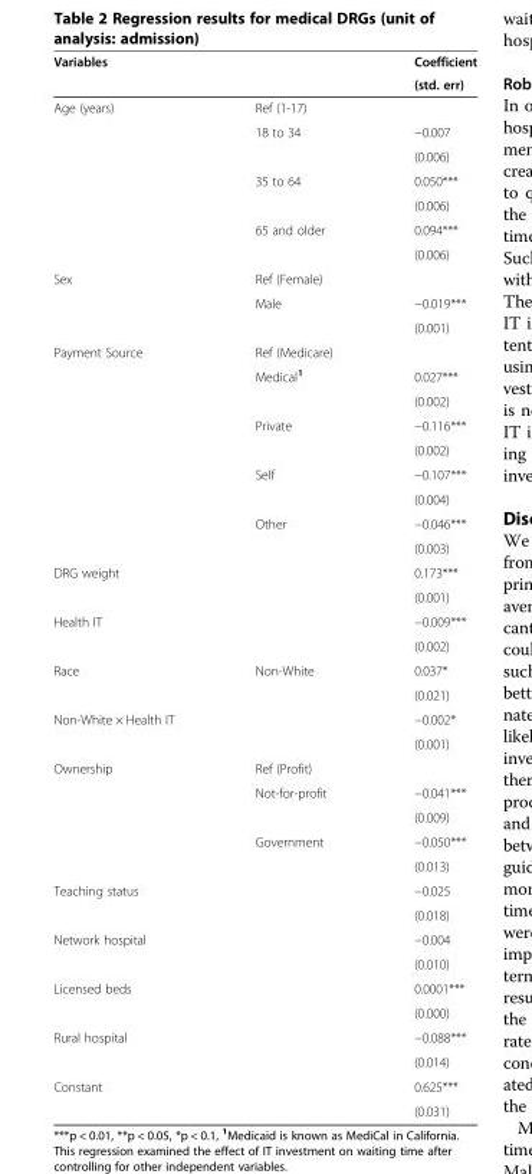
<table><thead><tr><td rowspan="2" colspan="2">Variables</td><td rowspan="3">Coefficient (std. err)</td></tr><tr></tr><tr><td>Age (years)</td><td>Ref (1-17)</td></tr></thead><tbody><tr><td></td><td>18 to 34</td><td>−0.007</td></tr><tr><td></td><td></td><td>(0.006)</td></tr><tr><td></td><td>35 to 64</td><td>0.050***</td></tr><tr><td></td><td></td><td>(0.006)</td></tr><tr><td></td><td>65 and older</td><td>0.094***</td></tr><tr><td></td><td></td><td>(0.006)</td></tr><tr><td rowspan="3">Sex</td><td>Ref (Female)</td><td></td></tr><tr><td>Male</td><td>−0.019***</td></tr><tr><td></td><td>(0.001)</td></tr><tr><td rowspan="9">Payment Source</td><td>Ref (Medicare)</td><td></td></tr><tr><td>Medical<sup>1</sup></td><td>0.027***</td></tr><tr><td></td><td>(0.002)</td></tr><tr><td>Private</td><td>−0.116***</td></tr><tr><td></td><td>(0.002)</td></tr><tr><td>Self</td><td>−0.107***</td></tr><tr><td></td><td>(0.004)</td></tr><tr><td>Other</td><td>−0.046***</td></tr><tr><td></td><td>(0.003)</td></tr><tr><td rowspan="2">DRG weight</td><td></td><td>0.173***</td></tr><tr><td></td><td>(0.001)</td></tr><tr><td rowspan="2">Health IT</td><td></td><td>−0.009***</td></tr><tr><td></td><td>(0.002)</td></tr><tr><td rowspan="2">Race</td><td>Non-White</td><td>0.037*</td></tr><tr><td></td><td>(0.021)</td></tr><tr><td rowspan="2">Non-White × Health IT</td><td></td><td>−0.002*</td></tr><tr><td></td><td>(0.001)</td></tr><tr><td rowspan="5">Ownership</td><td>Ref (Profit)</td><td></td></tr><tr><td>Not-for-profit</td><td>−0.041***</td></tr><tr><td></td><td>(0.009)</td></tr><tr><td>Government</td><td>−0.050***</td></tr><tr><td></td><td>(0.013)</td></tr><tr><td colspan="2">Teaching status</td><td>−0.025</td></tr><tr><td></td><td></td><td>(0.018)</td></tr><tr><td colspan="2">Network hospital</td><td>−0.004</td></tr><tr><td></td><td></td><td>(0.010)</td></tr><tr><td colspan="2">Licensed beds</td><td>0.0001***</td></tr><tr><td></td><td></td><td>(0.000)</td></tr><tr><td colspan="2">Rural hospital</td><td>−0.088***</td></tr><tr><td></td><td></td><td>(0.014)</td></tr><tr><td rowspan="2">Constant</td><td></td><td>0.625***</td></tr><tr><td></td><td>(0.031)</td></tr></tbody></table>